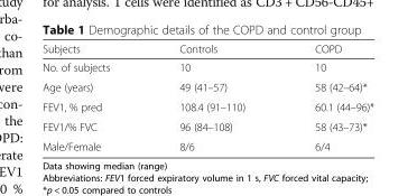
<table><thead><tr><td>Subjects</td><td>Controls</td><td>COPD</td></tr></thead><tbody><tr><td>No. of subjects</td><td>10</td><td>10</td></tr><tr><td>Age (years)</td><td>49 (41–57)</td><td>58 (42–64)*</td></tr><tr><td>FEV1, % pred</td><td>108.4 (91–110)</td><td>60.1 (44–96)*</td></tr><tr><td>FEV1/% FVC</td><td>96 (84–108)</td><td>58 (43–73)*</td></tr><tr><td>Male/Female</td><td>8/6</td><td>6/4</td></tr></tbody></table>